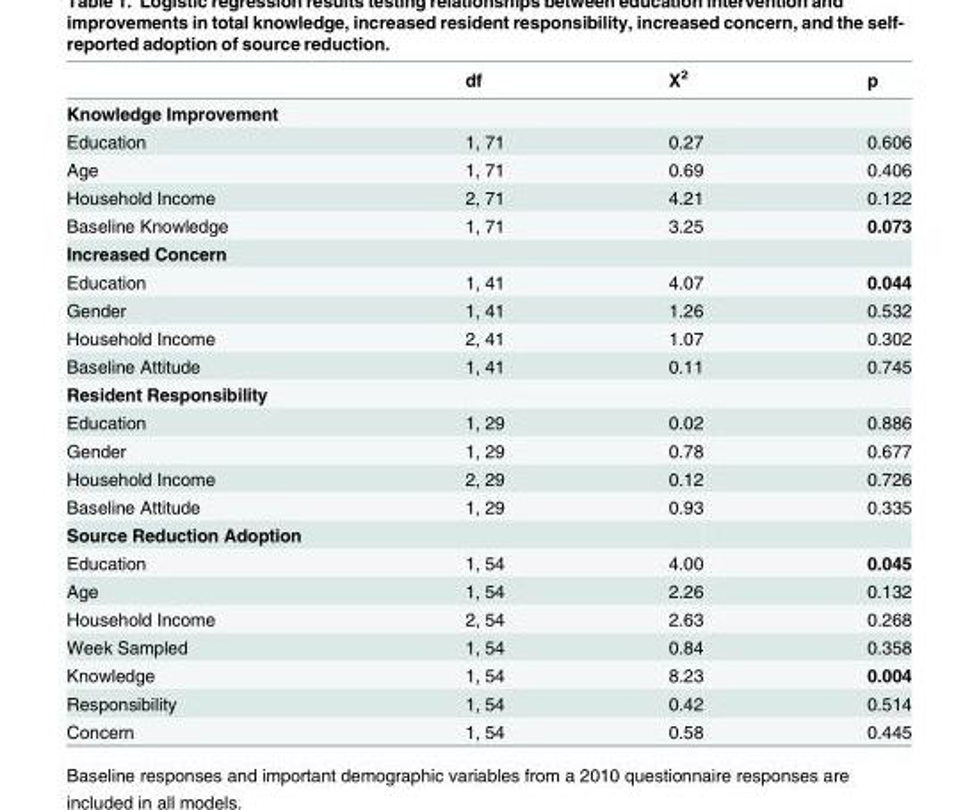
<table><thead><tr><td></td><td>df</td><td>X<sup>2</sup></td><td>p</td></tr></thead><tbody><tr><td colspan="4">Knowledge Improvement</td></tr><tr><td>Education</td><td>1, 71</td><td>0.27</td><td>0.606</td></tr><tr><td>Age</td><td>1, 71</td><td>0.69</td><td>0.406</td></tr><tr><td>Household Income</td><td>2, 71</td><td>4.21</td><td>0.122</td></tr><tr><td>Baseline Knowledge</td><td>1, 71</td><td>3.25</td><td>0.073</td></tr><tr><td colspan="4">Increased Concern</td></tr><tr><td>Education</td><td>1, 41</td><td>4.07</td><td>0.044</td></tr><tr><td>Gender</td><td>1, 41</td><td>1.26</td><td>0.532</td></tr><tr><td>Household Income</td><td>2, 41</td><td>1.07</td><td>0.302</td></tr><tr><td>Baseline Attitude</td><td>1, 41</td><td>0.11</td><td>0.745</td></tr><tr><td colspan="4">Resident Responsibility</td></tr><tr><td>Education</td><td>1, 29</td><td>0.02</td><td>0.886</td></tr><tr><td>Gender</td><td>1, 29</td><td>0.78</td><td>0.677</td></tr><tr><td>Household Income</td><td>2, 29</td><td>0.12</td><td>0.726</td></tr><tr><td>Baseline Attitude</td><td>1, 29</td><td>0.93</td><td>0.335</td></tr><tr><td colspan="4">Source Reduction Adoption</td></tr><tr><td>Education</td><td>1, 54</td><td>4.00</td><td>0.045</td></tr><tr><td>Age</td><td>1, 54</td><td>2.26</td><td>0.132</td></tr><tr><td>Household Income</td><td>2, 54</td><td>2.63</td><td>0.268</td></tr><tr><td>Week Sampled</td><td>1, 54</td><td>0.84</td><td>0.358</td></tr><tr><td>Knowledge</td><td>1, 54</td><td>8.23</td><td>0.004</td></tr><tr><td>Responsibility</td><td>1, 54</td><td>0.42</td><td>0.514</td></tr><tr><td>Concern</td><td>1, 54</td><td>0.58</td><td>0.445</td></tr></tbody></table>